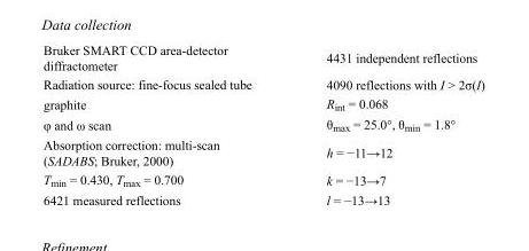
<table><tbody><tr><td>Bruker SMART CCD area-detector diffractometer</td><td>4431 independent reflections</td></tr><tr><td>Radiation source: fine-focus sealed tube</td><td>4090 reflections with I &gt; 2σ(I)</td></tr><tr><td>graphite</td><td>R<sub>int</sub> = 0.068</td></tr><tr><td>φ and ω scan</td><td>θ<sub>max</sub> = 25.0°, θ<sub>min</sub> = 1.8°</td></tr><tr><td>Absorption correction: multi-scan (SADABS; Bruker, 2000)</td><td>h = −11→12</td></tr><tr><td>T<sub>min</sub> = 0.430, T<sub>max</sub> = 0.700</td><td>k = −13→7</td></tr><tr><td>6421 measured reflections</td><td>l = −13→13</td></tr></tbody></table>